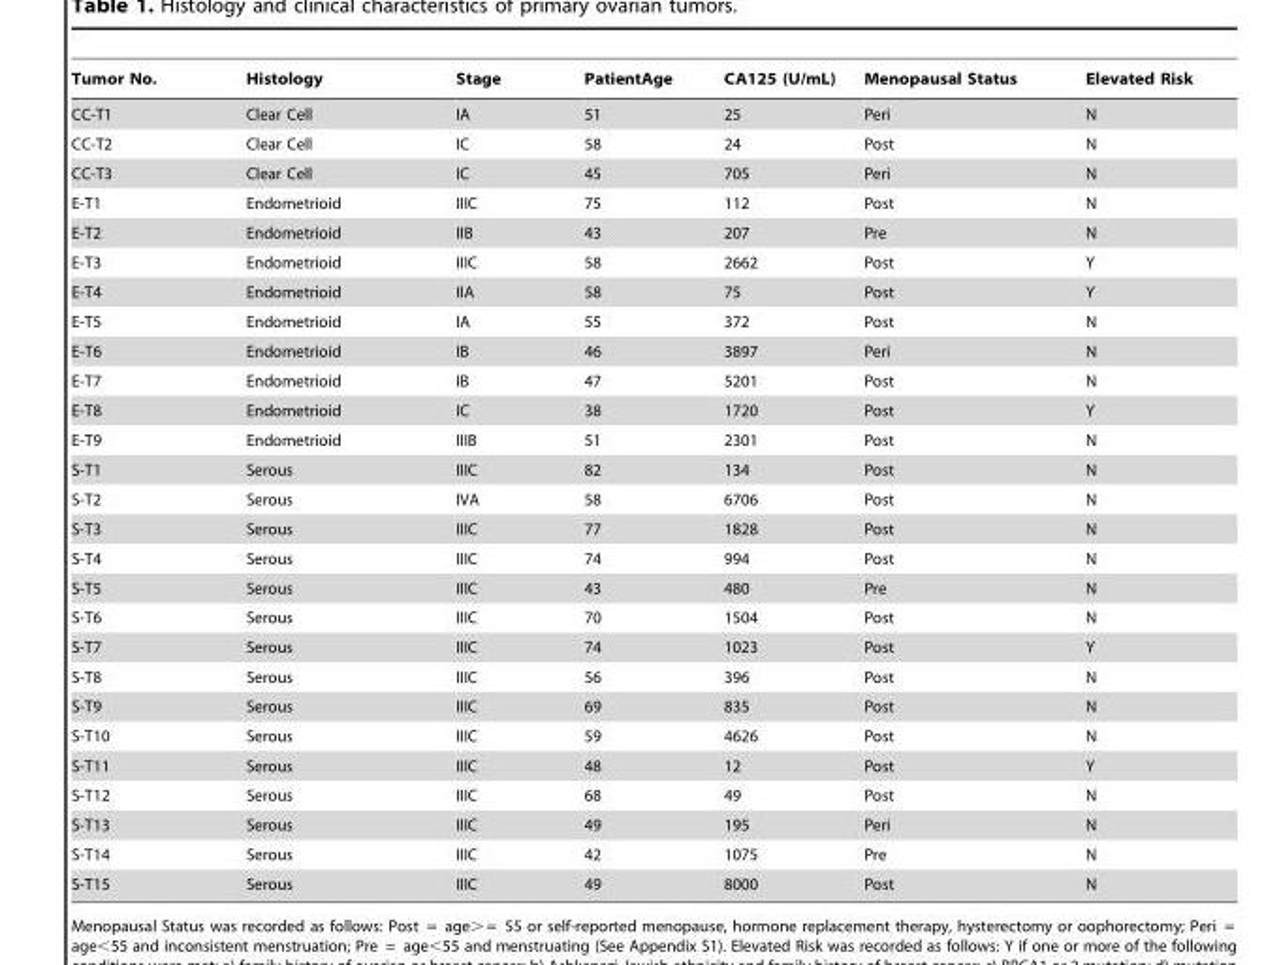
<table><thead><tr><td>Tumor No.</td><td>Histology</td><td>Stage</td><td>PatientAge</td><td>CA125 (U/mL)</td><td>Menopausal Status</td><td>Elevated Risk</td></tr></thead><tbody><tr><td>CC-T1</td><td>Clear Cell</td><td>IA</td><td>51</td><td>25</td><td>Peri</td><td>N</td></tr><tr><td>CC-T2</td><td>Clear Cell</td><td>IC</td><td>58</td><td>24</td><td>Post</td><td>N</td></tr><tr><td>CC-T3</td><td>Clear Cell</td><td>IC</td><td>45</td><td>705</td><td>Peri</td><td>N</td></tr><tr><td>E-T1</td><td>Endometrioid</td><td>IIIC</td><td>75</td><td>112</td><td>Post</td><td>N</td></tr><tr><td>E-T2</td><td>Endometrioid</td><td>IIB</td><td>43</td><td>207</td><td>Pre</td><td>N</td></tr><tr><td>E-T3</td><td>Endometrioid</td><td>IIIC</td><td>58</td><td>2662</td><td>Post</td><td>Y</td></tr><tr><td>E-T4</td><td>Endometrioid</td><td>IIA</td><td>58</td><td>75</td><td>Post</td><td>Y</td></tr><tr><td>E-T5</td><td>Endometrioid</td><td>IA</td><td>55</td><td>372</td><td>Post</td><td>N</td></tr><tr><td>E-T6</td><td>Endometrioid</td><td>IB</td><td>46</td><td>3897</td><td>Peri</td><td>N</td></tr><tr><td>E-T7</td><td>Endometrioid</td><td>IB</td><td>47</td><td>5201</td><td>Post</td><td>N</td></tr><tr><td>E-T8</td><td>Endometrioid</td><td>IC</td><td>38</td><td>1720</td><td>Post</td><td>Y</td></tr><tr><td>E-T9</td><td>Endometrioid</td><td>IIIB</td><td>51</td><td>2301</td><td>Post</td><td>N</td></tr><tr><td>S-T1</td><td>Serous</td><td>IIIC</td><td>82</td><td>134</td><td>Post</td><td>N</td></tr><tr><td>S-T2</td><td>Serous</td><td>IVA</td><td>58</td><td>6706</td><td>Post</td><td>N</td></tr><tr><td>S-T3</td><td>Serous</td><td>IIIC</td><td>77</td><td>1828</td><td>Post</td><td>N</td></tr><tr><td>S-T4</td><td>Serous</td><td>IIIC</td><td>74</td><td>994</td><td>Post</td><td>N</td></tr><tr><td>S-T5</td><td>Serous</td><td>IIIC</td><td>43</td><td>480</td><td>Pre</td><td>N</td></tr><tr><td>S-T6</td><td>Serous</td><td>IIIC</td><td>70</td><td>1504</td><td>Post</td><td>N</td></tr><tr><td>S-T7</td><td>Serous</td><td>IIIC</td><td>74</td><td>1023</td><td>Post</td><td>Y</td></tr><tr><td>S-T8</td><td>Serous</td><td>IIIC</td><td>56</td><td>396</td><td>Post</td><td>N</td></tr><tr><td>S-T9</td><td>Serous</td><td>IIIC</td><td>69</td><td>835</td><td>Post</td><td>N</td></tr><tr><td>S-T10</td><td>Serous</td><td>IIIC</td><td>59</td><td>4626</td><td>Post</td><td>N</td></tr><tr><td>S-T11</td><td>Serous</td><td>IIIC</td><td>48</td><td>12</td><td>Post</td><td>Y</td></tr><tr><td>S-T12</td><td>Serous</td><td>IIIC</td><td>68</td><td>49</td><td>Post</td><td>N</td></tr><tr><td>S-T13</td><td>Serous</td><td>IIIC</td><td>49</td><td>195</td><td>Peri</td><td>N</td></tr><tr><td>S-T14</td><td>Serous</td><td>IIIC</td><td>42</td><td>1075</td><td>Pre</td><td>N</td></tr><tr><td>S-T15</td><td>Serous</td><td>IIIC</td><td>49</td><td>8000</td><td>Post</td><td>N</td></tr></tbody></table>